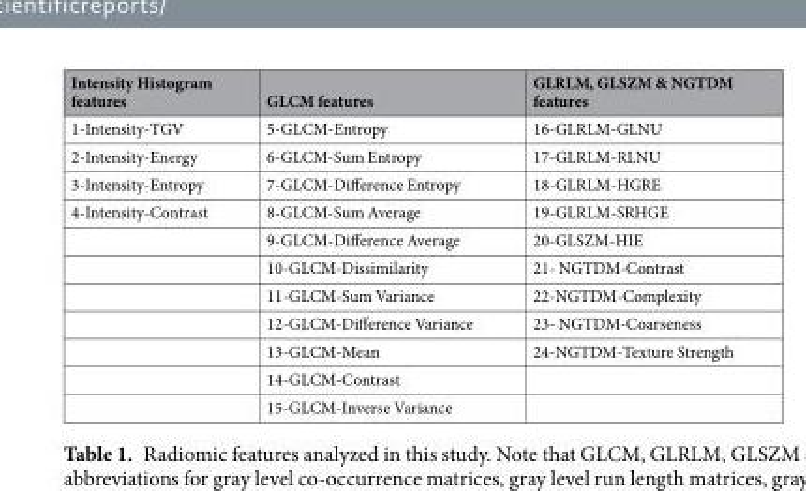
<table><thead><tr><td>Intensity Histogram features</td><td>GLCM features</td><td>GLRLM, GLSZM &amp; NGTDM features</td></tr></thead><tbody><tr><td>1-Intensity-TGV</td><td>5-GLCM-Entropy</td><td>16-GLRLM-GLNU</td></tr><tr><td>2-Intensity-Energy</td><td>6-GLCM-Sum Entropy</td><td>17-GLRLM-RLNU</td></tr><tr><td>3-Intensity-Entropy</td><td>7-GLCM-Difference Entropy</td><td>18-GLRLM-HGRE</td></tr><tr><td rowspan="8">4-Intensity-Contrast</td><td>8-GLCM-Sum Average</td><td>19-GLRLM-SRHGE</td></tr><tr><td>9-GLCM-Difference Average</td><td>20-GLSZM-HIE</td></tr><tr><td>10-GLCM-Dissimilarity</td><td>21- NGTDM-Contrast</td></tr><tr><td>11-GLCM-Sum Variance</td><td>22-NGTDM-Complexity</td></tr><tr><td>12-GLCM-Difference Variance</td><td>23- NGTDM-Coarseness</td></tr><tr><td>13-GLCM-Mean</td><td>24-NGTDM-Texture Strength</td></tr><tr><td>14-GLCM-Contrast</td><td></td></tr><tr><td>15-GLCM-Inverse Variance</td><td></td></tr></tbody></table>